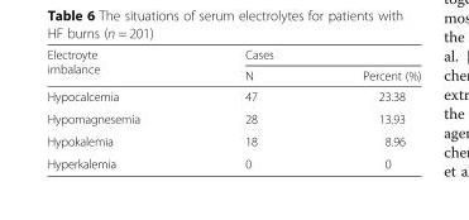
<table><thead><tr><td rowspan="2">Electroyte imbalance</td><td colspan="2">Cases</td></tr><tr><td>N</td><td>Percent (%)</td></tr></thead><tbody><tr><td>Hypocalcemia</td><td>47</td><td>23.38</td></tr><tr><td>Hypomagnesemia</td><td>28</td><td>13.93</td></tr><tr><td>Hypokalemia</td><td>18</td><td>8.96</td></tr><tr><td>Hyperkalemia</td><td>0</td><td>0</td></tr></tbody></table>